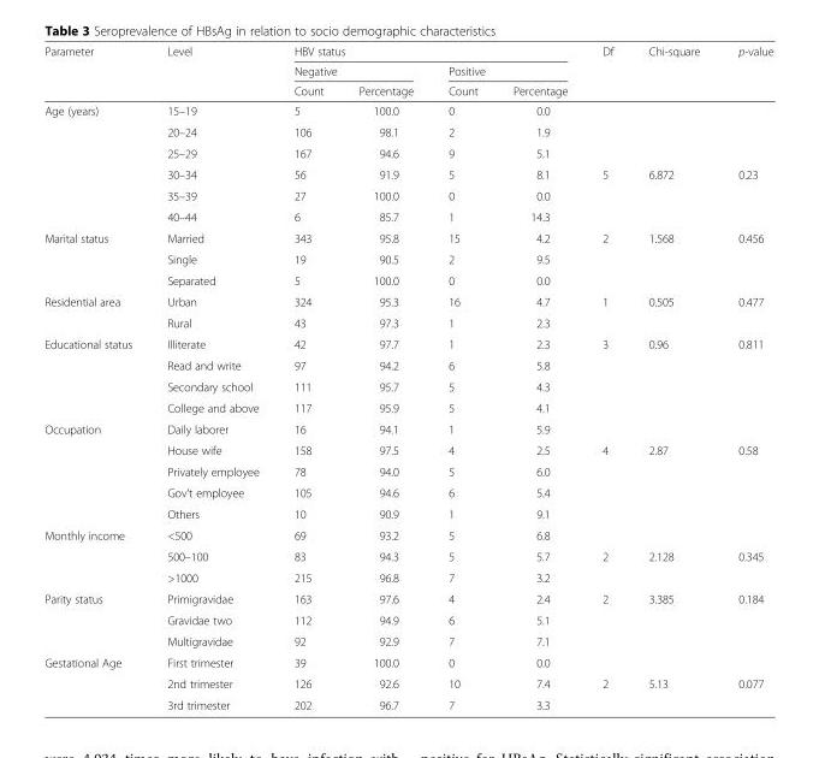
<table><thead><tr><td rowspan="3">Parameter</td><td rowspan="3">Level</td><td colspan="4">HBV status</td><td rowspan="3">Df</td><td rowspan="3">Chi-square</td><td rowspan="3">p-value</td></tr><tr><td colspan="2">Negative</td><td colspan="2">Positive</td></tr><tr><td>Count</td><td>Percentage</td><td>Count</td><td>Percentage</td></tr></thead><tbody><tr><td rowspan="6">Age (years)</td><td>15–19</td><td>5</td><td>100.0</td><td>0</td><td>0.0</td><td></td><td></td><td></td></tr><tr><td>20–24</td><td>106</td><td>98.1</td><td>2</td><td>1.9</td><td></td><td></td><td></td></tr><tr><td>25–29</td><td>167</td><td>94.6</td><td>9</td><td>5.1</td><td></td><td></td><td></td></tr><tr><td>30–34</td><td>56</td><td>91.9</td><td>5</td><td>8.1</td><td>5</td><td>6.872</td><td>0.23</td></tr><tr><td>35–39</td><td>27</td><td>100.0</td><td>0</td><td>0.0</td><td></td><td></td><td></td></tr><tr><td>40–44</td><td>6</td><td>85.7</td><td>1</td><td>14.3</td><td></td><td></td><td></td></tr><tr><td rowspan="3">Marital status</td><td>Married</td><td>343</td><td>95.8</td><td>15</td><td>4.2</td><td>2</td><td>1.568</td><td>0.456</td></tr><tr><td>Single</td><td>19</td><td>90.5</td><td>2</td><td>9.5</td><td></td><td></td><td></td></tr><tr><td>Separated</td><td>5</td><td>100.0</td><td>0</td><td>0.0</td><td></td><td></td><td></td></tr><tr><td rowspan="2">Residential area</td><td>Urban</td><td>324</td><td>95.3</td><td>16</td><td>4.7</td><td>1</td><td>0.505</td><td>0.477</td></tr><tr><td>Rural</td><td>43</td><td>97.3</td><td>1</td><td>2.3</td><td></td><td></td><td></td></tr><tr><td rowspan="4">Educational status</td><td>Illiterate</td><td>42</td><td>97.7</td><td>1</td><td>2.3</td><td>3</td><td>0.96</td><td>0.811</td></tr><tr><td>Read and write</td><td>97</td><td>94.2</td><td>6</td><td>5.8</td><td></td><td></td><td></td></tr><tr><td>Secondary school</td><td>111</td><td>95.7</td><td>5</td><td>4.3</td><td></td><td></td><td></td></tr><tr><td>College and above</td><td>117</td><td>95.9</td><td>5</td><td>4.1</td><td></td><td></td><td></td></tr><tr><td rowspan="5">Occupation</td><td>Daily laborer</td><td>16</td><td>94.1</td><td>1</td><td>5.9</td><td></td><td></td><td></td></tr><tr><td>House wife</td><td>158</td><td>97.5</td><td>4</td><td>2.5</td><td>4</td><td>2.87</td><td>0.58</td></tr><tr><td>Privately employee</td><td>78</td><td>94.0</td><td>5</td><td>6.0</td><td></td><td></td><td></td></tr><tr><td>Gov’t employee</td><td>105</td><td>94.6</td><td>6</td><td>5.4</td><td></td><td></td><td></td></tr><tr><td>Others</td><td>10</td><td>90.9</td><td>1</td><td>9.1</td><td></td><td></td><td></td></tr><tr><td rowspan="3">Monthly income</td><td>&lt;500</td><td>69</td><td>93.2</td><td>5</td><td>6.8</td><td></td><td></td><td></td></tr><tr><td>500–100</td><td>83</td><td>94.3</td><td>5</td><td>5.7</td><td>2</td><td>2.128</td><td>0.345</td></tr><tr><td>&gt;1000</td><td>215</td><td>96.8</td><td>7</td><td>3.2</td><td></td><td></td><td></td></tr><tr><td rowspan="3">Parity status</td><td>Primigravidae</td><td>163</td><td>97.6</td><td>4</td><td>2.4</td><td>2</td><td>3.385</td><td>0.184</td></tr><tr><td>Gravidae two</td><td>112</td><td>94.9</td><td>6</td><td>5.1</td><td></td><td></td><td></td></tr><tr><td>Multigravidae</td><td>92</td><td>92.9</td><td>7</td><td>7.1</td><td></td><td></td><td></td></tr><tr><td rowspan="3">Gestational Age</td><td>First trimester</td><td>39</td><td>100.0</td><td>0</td><td>0.0</td><td></td><td></td><td></td></tr><tr><td>2nd trimester</td><td>126</td><td>92.6</td><td>10</td><td>7.4</td><td>2</td><td>5.13</td><td>0.077</td></tr><tr><td>3rd trimester</td><td>202</td><td>96.7</td><td>7</td><td>3.3</td><td></td><td></td><td></td></tr></tbody></table>